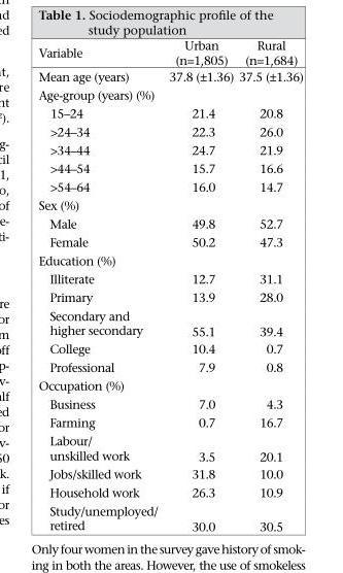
<table><thead><tr><td rowspan="2">Variable</td><td rowspan="2">Urban (n=1,805)</td><td rowspan="2">Rural (n=1,684)</td></tr><tr></tr></thead><tbody><tr><td>Mean age (years)</td><td>37.8 (±1.36)</td><td>37.5 (±1.36)</td></tr><tr><td colspan="3">Age-group (years) (%)</td></tr><tr><td>15–24</td><td>21.4</td><td>20.8</td></tr><tr><td>&gt;24–34</td><td>22.3</td><td>26.0</td></tr><tr><td>&gt;34–44</td><td>24.7</td><td>21.9</td></tr><tr><td>&gt;44–54</td><td>15.7</td><td>16.6</td></tr><tr><td>&gt;54–64</td><td>16.0</td><td>14.7</td></tr><tr><td colspan="3">Sex (%)</td></tr><tr><td>Male</td><td>49.8</td><td>52.7</td></tr><tr><td>Female</td><td>50.2</td><td>47.3</td></tr><tr><td colspan="3">Education (%)</td></tr><tr><td>Illiterate</td><td>12.7</td><td>31.1</td></tr><tr><td>Primary</td><td>13.9</td><td>28.0</td></tr><tr><td>Secondary and higher secondary</td><td>55.1</td><td>39.4</td></tr><tr><td>College</td><td>10.4</td><td>0.7</td></tr><tr><td>Professional</td><td>7.9</td><td>0.8</td></tr><tr><td colspan="3">Occupation (%)</td></tr><tr><td>Business</td><td>7.0</td><td>4.3</td></tr><tr><td>Farming</td><td>0.7</td><td>16.7</td></tr><tr><td>Labour/ unskilled work</td><td>3.5</td><td>20.1</td></tr><tr><td>Jobs/skilled work</td><td>31.8</td><td>10.0</td></tr><tr><td>Household work</td><td>26.3</td><td>10.9</td></tr><tr><td>Study/unemployed/ retired</td><td>30.0</td><td>30.5</td></tr></tbody></table>